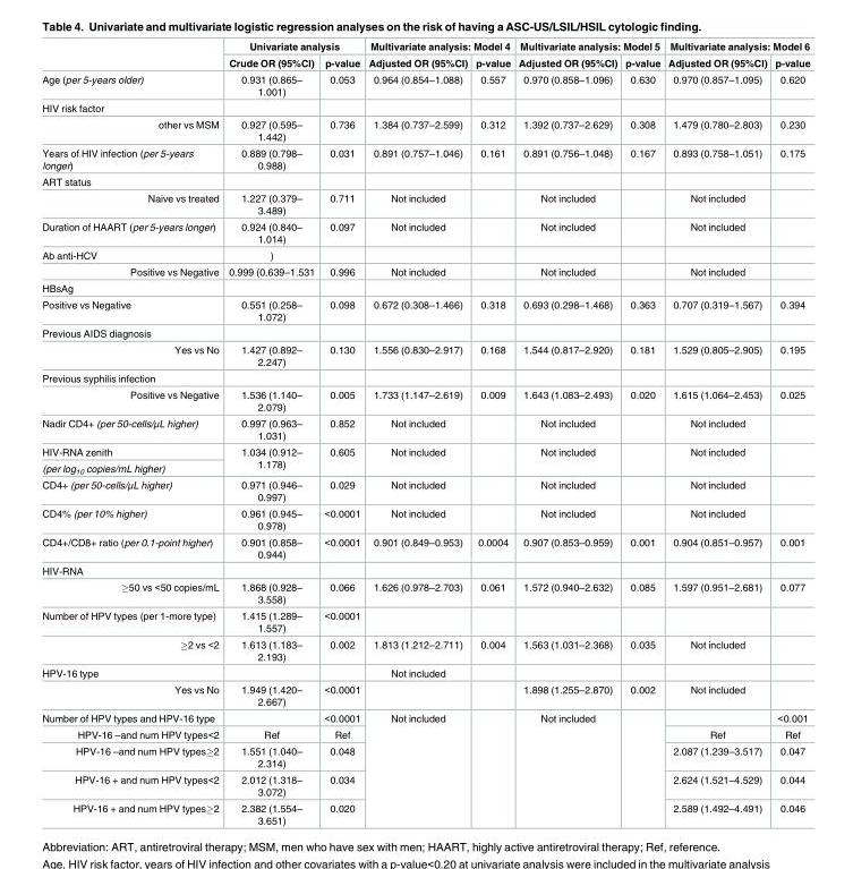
<table><thead><tr><td rowspan="2"></td><td colspan="2">Univariate analysis</td><td colspan="2">Multivariate analysis: Model 4</td><td colspan="2">Multivariate analysis: Model 5</td><td colspan="2">Multivariate analysis: Model 6</td></tr><tr><td>Crude OR (95%CI)</td><td>p-value</td><td>Adjusted OR (95%CI)</td><td>p-value</td><td>Adjusted OR (95%CI)</td><td>p-value</td><td>Adjusted OR (95%CI)</td><td>p-value</td></tr></thead><tbody><tr><td>Age (per 5-years older)</td><td>0.931 (0.865– 1.001)</td><td>0.053</td><td>0.964 (0.854–1.088)</td><td>0.557</td><td>0.970 (0.858–1.096)</td><td>0.630</td><td>0.970 (0.857–1.095)</td><td>0.620</td></tr><tr><td colspan="9">HIV risk factor</td></tr><tr><td>other vs MSM</td><td>0.927 (0.595– 1.442)</td><td>0.736</td><td>1.384 (0.737–2.599)</td><td>0.312</td><td>1.392 (0.737–2.629)</td><td>0.308</td><td>1.479 (0.780–2.803)</td><td>0.230</td></tr><tr><td>Years of HIV infection (per 5-years longer)</td><td>0.889 (0.798– 0.988)</td><td>0.031</td><td>0.891 (0.757–1.046)</td><td>0.161</td><td>0.891 (0.756–1.048)</td><td>0.167</td><td>0.893 (0.758–1.051)</td><td>0.175</td></tr><tr><td colspan="9">ART status</td></tr><tr><td>Naive vs treated</td><td>1.227 (0.379– 3.489)</td><td>0.711</td><td>Not included</td><td></td><td>Not included</td><td></td><td>Not included</td><td></td></tr><tr><td>Duration of HAART (per 5-years longer)</td><td>0.924 (0.840– 1.014)</td><td>0.097</td><td>Not included</td><td></td><td>Not included</td><td></td><td>Not included</td><td></td></tr><tr><td>Ab anti-HCV</td><td>)</td><td></td><td></td><td></td><td></td><td></td><td></td><td></td></tr><tr><td>Positive vs Negative</td><td>0.999 (0.639–1.531</td><td>0.996</td><td>Not included</td><td></td><td>Not included</td><td></td><td>Not included</td><td></td></tr><tr><td colspan="9">HBsAg</td></tr><tr><td>Positive vs Negative</td><td>0.551 (0.258– 1.072)</td><td>0.098</td><td>0.672 (0.308–1.466)</td><td>0.318</td><td>0.693 (0.298–1.468)</td><td>0.363</td><td>0.707 (0.319–1.567)</td><td>0.394</td></tr><tr><td colspan="9">Previous AIDS diagnosis</td></tr><tr><td>Yes vs No</td><td>1.427 (0.892– 2.247)</td><td>0.130</td><td>1.556 (0.830–2.917)</td><td>0.168</td><td>1.544 (0.817–2.920)</td><td>0.181</td><td>1.529 (0.805–2.905)</td><td>0.195</td></tr><tr><td colspan="9">Previous syphilis infection</td></tr><tr><td>Positive vs Negative</td><td>1.536 (1.140– 2.079)</td><td>0.005</td><td>1.733 (1.147–2.619)</td><td>0.009</td><td>1.643 (1.083–2.493)</td><td>0.020</td><td>1.615 (1.064–2.453)</td><td>0.025</td></tr><tr><td>Nadir CD4+ (per 50-cells/μL higher)</td><td>0.997 (0.963– 1.031)</td><td>0.852</td><td>Not included</td><td></td><td>Not included</td><td></td><td>Not included</td><td></td></tr><tr><td>HIV-RNA zenith</td><td rowspan="2">1.034 (0.912– 1.178)</td><td rowspan="2">0.605</td><td rowspan="2">Not included</td><td rowspan="2"></td><td rowspan="2">Not included</td><td rowspan="2"></td><td rowspan="2">Not included</td><td rowspan="2"></td></tr><tr><td>(per log<sub>10</sub> copies/mL higher)</td></tr><tr><td>CD4+ (per 50-cells/μL higher)</td><td>0.971 (0.946– 0.997)</td><td>0.029</td><td>Not included</td><td></td><td>Not included</td><td></td><td>Not included</td><td></td></tr><tr><td>CD4% (per 10% higher)</td><td>0.961 (0.945– 0.978)</td><td>&lt;0.0001</td><td>Not included</td><td></td><td>Not included</td><td></td><td>Not included</td><td></td></tr><tr><td>CD4+/CD8+ ratio (per 0.1-point higher)</td><td>0.901 (0.858– 0.944)</td><td>&lt;0.0001</td><td>0.901 (0.849–0.953)</td><td>0.0004</td><td>0.907 (0.853–0.959)</td><td>0.001</td><td>0.904 (0.851–0.957)</td><td>0.001</td></tr><tr><td colspan="9">HIV-RNA</td></tr><tr><td>≥50 vs &lt;50 copies/mL</td><td>1.868 (0.928– 3.558)</td><td>0.066</td><td>1.626 (0.978–2.703)</td><td>0.061</td><td>1.572 (0.940–2.632)</td><td>0.085</td><td>1.597 (0.951–2.681)</td><td>0.077</td></tr><tr><td>Number of HPV types (per 1-more type)</td><td>1.415 (1.289– 1.557)</td><td>&lt;0.0001</td><td></td><td></td><td></td><td></td><td></td><td></td></tr><tr><td>≥2 vs &lt;2</td><td>1.613 (1.183– 2.193)</td><td>0.002</td><td>1.813 (1.212–2.711)</td><td>0.004</td><td>1.563 (1.031–2.368)</td><td>0.035</td><td>Not included</td><td></td></tr><tr><td>HPV-16 type</td><td></td><td></td><td>Not included</td><td></td><td></td><td></td><td></td><td></td></tr><tr><td>Yes vs No</td><td>1.949 (1.420– 2.667)</td><td>&lt;0.0001</td><td></td><td></td><td>1.898 (1.255–2.870)</td><td>0.002</td><td>Not included</td><td></td></tr><tr><td>Number of HPV types and HPV-16 type</td><td></td><td>&lt;0.0001</td><td rowspan="5">Not included</td><td rowspan="5"></td><td rowspan="5">Not included</td><td rowspan="5"></td><td></td><td>&lt;0.001</td></tr><tr><td>HPV-16 –and num HPV types&lt;2</td><td>Ref</td><td>Ref</td><td>Ref</td><td>Ref</td></tr><tr><td>HPV-16 –and num HPV types≥2</td><td>1.551 (1.040– 2.314)</td><td>0.048</td><td>2.087 (1.239–3.517)</td><td>0.047</td></tr><tr><td>HPV-16 + and num HPV types&lt;2</td><td>2.012 (1.318– 3.072)</td><td>0.034</td><td>2.624 (1.521–4.529)</td><td>0.044</td></tr><tr><td>HPV-16 + and num HPV types≥2</td><td>2.382 (1.554– 3.651)</td><td>0.020</td><td>2.589 (1.492–4.491)</td><td>0.046</td></tr></tbody></table>